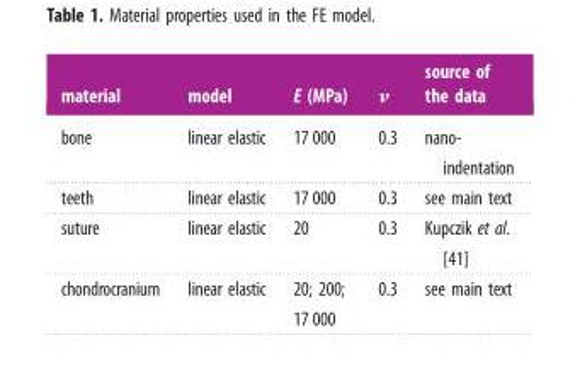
<table><thead><tr><td>material</td><td>model</td><td>E (MPa)</td><td>ν</td><td>source of the data</td></tr></thead><tbody><tr><td>bone</td><td>linear elastic</td><td>17 000</td><td>0.3</td><td>nano- indentation</td></tr><tr><td>teeth</td><td>linear elastic</td><td>17 000</td><td>0.3</td><td>see main text</td></tr><tr><td>suture</td><td>linear elastic</td><td>20</td><td>0.3</td><td>Kupczik et al. [41]</td></tr><tr><td>chondrocranium</td><td>linear elastic</td><td>20; 200; 17 000</td><td>0.3</td><td>see main text</td></tr></tbody></table>